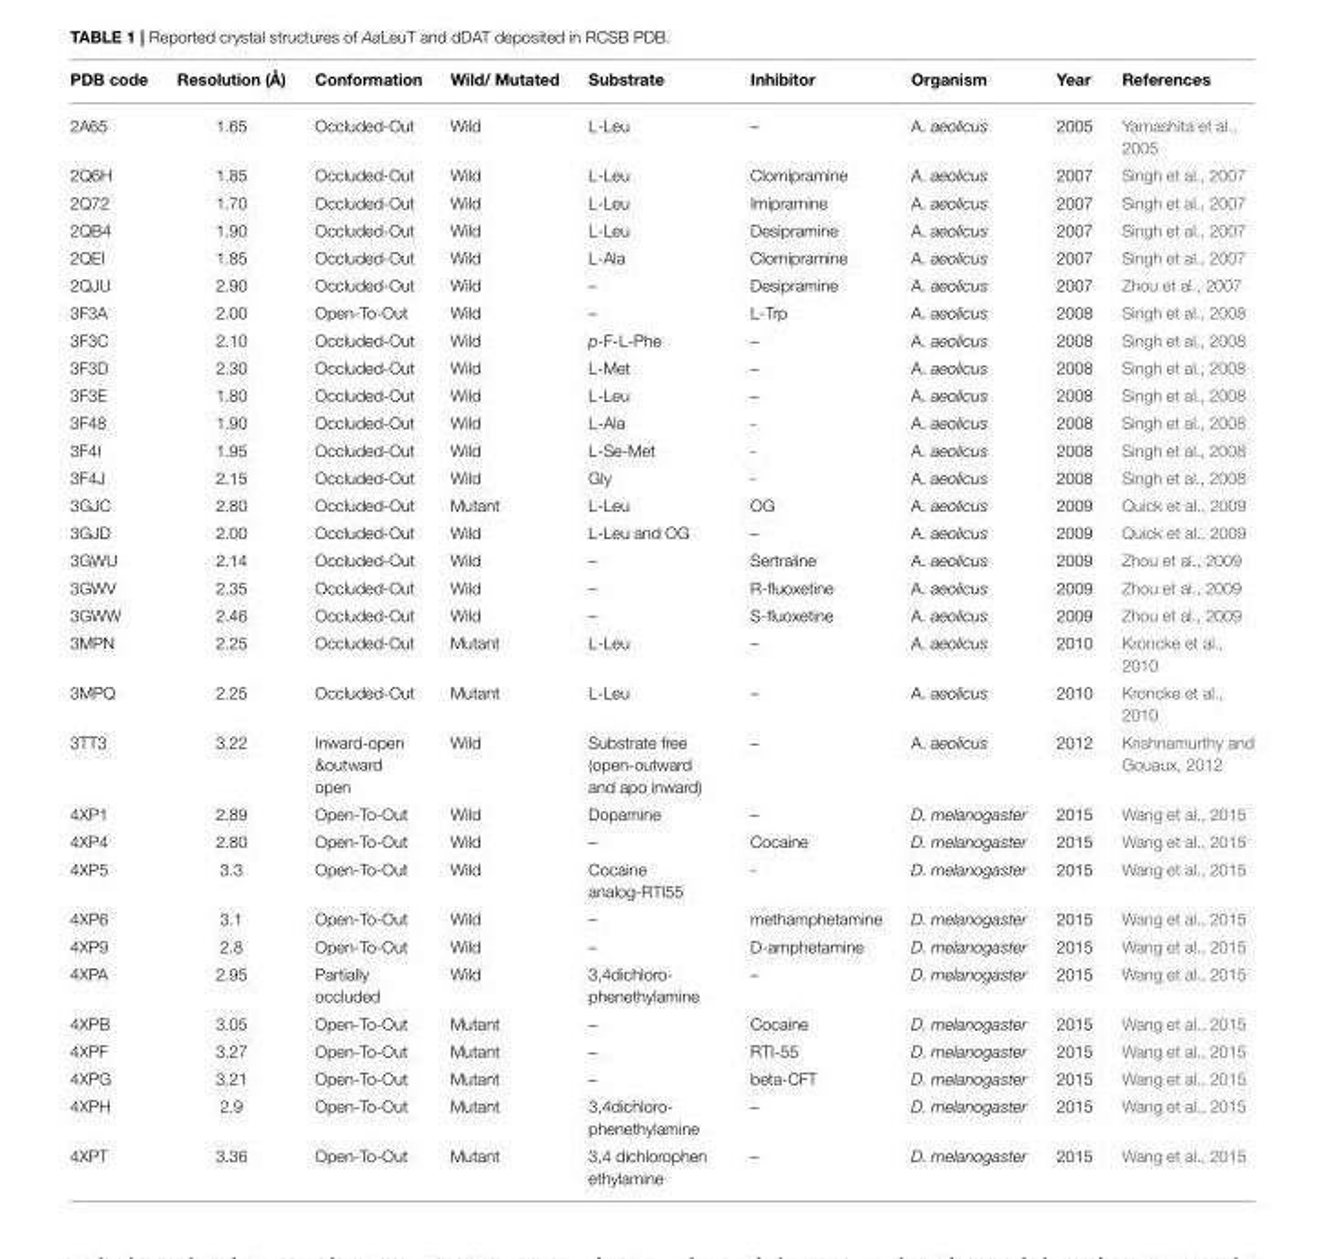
<table><thead><tr><td>PDB code</td><td>Resolution (Å)</td><td>Conformation</td><td>Wild/ Mutated</td><td>Substrate</td><td>Inhibitor</td><td>Organism</td><td>Year</td><td>References</td></tr></thead><tbody><tr><td>2A65</td><td>1.65</td><td>Occluded-Out</td><td>Wild</td><td>L-Leu</td><td>–</td><td>A. aeolicus</td><td>2005</td><td>Yamashita et al., 2005</td></tr><tr><td>2Q6H</td><td>1.85</td><td>Occluded-Out</td><td>Wild</td><td>L-Leu</td><td>Clomipramine</td><td>A. aeolicus</td><td>2007</td><td>Singh et al., 2007</td></tr><tr><td>2Q72</td><td>1.70</td><td>Occluded-Out</td><td>Wild</td><td>L-Leu</td><td>Imipramine</td><td>A. aeolicus</td><td>2007</td><td>Singh et al., 2007</td></tr><tr><td>2QB4</td><td>1.90</td><td>Occluded-Out</td><td>Wild</td><td>L-Leu</td><td>Desipramine</td><td>A. aeolicus</td><td>2007</td><td>Singh et al., 2007</td></tr><tr><td>2QEI</td><td>1.85</td><td>Occluded-Out</td><td>Wild</td><td>L-Ala</td><td>Clomipramine</td><td>A. aeolicus</td><td>2007</td><td>Singh et al., 2007</td></tr><tr><td>2QJU</td><td>2.90</td><td>Occluded-Out</td><td>Wild</td><td>–</td><td>Desipramine</td><td>A. aeolicus</td><td>2007</td><td>Zhou et al., 2007</td></tr><tr><td>3F3A</td><td>2.00</td><td>Open-To-Out</td><td>Wild</td><td>–</td><td>L-Trp</td><td>A. aeolicus</td><td>2008</td><td>Singh et al., 2008</td></tr><tr><td>3F3C</td><td>2.10</td><td>Occluded-Out</td><td>Wild</td><td>p-F-L-Phe</td><td>–</td><td>A. aeolicus</td><td>2008</td><td>Singh et al., 2008</td></tr><tr><td>3F3D</td><td>2.30</td><td>Occluded-Out</td><td>Wild</td><td>L-Met</td><td>–</td><td>A. aeolicus</td><td>2008</td><td>Singh et al., 2008</td></tr><tr><td>3F3E</td><td>1.80</td><td>Occluded-Out</td><td>Wild</td><td>L-Leu</td><td>–</td><td>A. aeolicus</td><td>2008</td><td>Singh et al., 2008</td></tr><tr><td>3F48</td><td>1.90</td><td>Occluded-Out</td><td>Wild</td><td>L-Ala</td><td>-</td><td>A. aeolicus</td><td>2008</td><td>Singh et al., 2008</td></tr><tr><td>3F4I</td><td>1.95</td><td>Occluded-Out</td><td>Wild</td><td>L-Se-Met</td><td>-</td><td>A. aeolicus</td><td>2008</td><td>Singh et al., 2008</td></tr><tr><td>3F4J</td><td>2.15</td><td>Occluded-Out</td><td>Wild</td><td>Gly</td><td>-</td><td>A. aeolicus</td><td>2008</td><td>Singh et al., 2008</td></tr><tr><td>3GJC</td><td>2.80</td><td>Occluded-Out</td><td>Mutant</td><td>L-Leu</td><td>OG</td><td>A. aeolicus</td><td>2009</td><td>Quick et al., 2009</td></tr><tr><td>3GJD</td><td>2.00</td><td>Occluded-Out</td><td>Wild</td><td>L-Leu and OG</td><td>–</td><td>A. aeolicus</td><td>2009</td><td>Quick et al., 2009</td></tr><tr><td>3GWU</td><td>2.14</td><td>Occluded-Out</td><td>Wild</td><td>–</td><td>Sertraline</td><td>A. aeolicus</td><td>2009</td><td>Zhou et al., 2009</td></tr><tr><td>3GWV</td><td>2.35</td><td>Occluded-Out</td><td>Wild</td><td>–</td><td>R-fluoxetine</td><td>A. aeolicus</td><td>2009</td><td>Zhou et al., 2009</td></tr><tr><td>3GWW</td><td>2.46</td><td>Occluded-Out</td><td>Wild</td><td>–</td><td>S-fluoxetine</td><td>A. aeolicus</td><td>2009</td><td>Zhou et al., 2009</td></tr><tr><td>3MPN</td><td>2.25</td><td>Occluded-Out</td><td>Mutant</td><td>L-Leu</td><td>–</td><td>A. aeolicus</td><td>2010</td><td>Kroncke et al., 2010</td></tr><tr><td>3MPQ</td><td>2.25</td><td>Occluded-Out</td><td>Mutant</td><td>L-Leu</td><td>–</td><td>A. aeolicus</td><td>2010</td><td>Kroncke et al., 2010</td></tr><tr><td>3TT3</td><td>3.22</td><td>Inward-open &amp;outward open</td><td>Wild</td><td>Substrate free (open-outward and apo inward)</td><td>–</td><td>A. aeolicus</td><td>2012</td><td>Krishnamurthy and Gouaux, 2012</td></tr><tr><td>4XP1</td><td>2.89</td><td>Open-To-Out</td><td>Wild</td><td>Dopamine</td><td>–</td><td>D. melanogaster</td><td>2015</td><td>Wang et al., 2015</td></tr><tr><td>4XP4</td><td>2.80</td><td>Open-To-Out</td><td>Wild</td><td>–</td><td>Cocaine</td><td>D. melanogaster</td><td>2015</td><td>Wang et al., 2015</td></tr><tr><td>4XP5</td><td>3.3</td><td>Open-To-Out</td><td>Wild</td><td>Cocaine analog-RTI55</td><td>-</td><td>D. melanogaster</td><td>2015</td><td>Wang et al., 2015</td></tr><tr><td>4XP6</td><td>3.1</td><td>Open-To-Out</td><td>Wild</td><td>–</td><td>methamphetamine</td><td>D. melanogaster</td><td>2015</td><td>Wang et al., 2015</td></tr><tr><td>4XP9</td><td>2.8</td><td>Open-To-Out</td><td>Wild</td><td>–</td><td>D-amphetamine</td><td>D. melanogaster</td><td>2015</td><td>Wang et al., 2015</td></tr><tr><td>4XPA</td><td>2.95</td><td>Partially occluded</td><td>Wild</td><td>3,4dichloro- phenethylamine</td><td>–</td><td>D. melanogaster</td><td>2015</td><td>Wang et al., 2015</td></tr><tr><td>4XPB</td><td>3.05</td><td>Open-To-Out</td><td>Mutant</td><td>–</td><td>Cocaine</td><td>D. melanogaster</td><td>2015</td><td>Wang et al., 2015</td></tr><tr><td>4XPF</td><td>3.27</td><td>Open-To-Out</td><td>Mutant</td><td>–</td><td>RTI-55</td><td>D. melanogaster</td><td>2015</td><td>Wang et al., 2015</td></tr><tr><td>4XPG</td><td>3.21</td><td>Open-To-Out</td><td>Mutant</td><td>–</td><td>beta-CFT</td><td>D. melanogaster</td><td>2015</td><td>Wang et al., 2015</td></tr><tr><td>4XPH</td><td>2.9</td><td>Open-To-Out</td><td>Mutant</td><td>3,4dichloro- phenethylamine</td><td>–</td><td>D. melanogaster</td><td>2015</td><td>Wang et al., 2015</td></tr><tr><td>4XPT</td><td>3.36</td><td>Open-To-Out</td><td>Mutant</td><td>3,4 dichlorophen ethylamine</td><td>–</td><td>D. melanogaster</td><td>2015</td><td>Wang et al., 2015</td></tr></tbody></table>